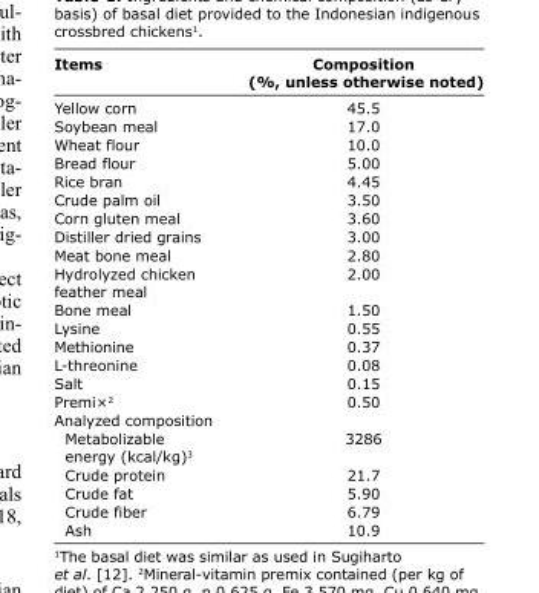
<table><thead><tr><td>Items</td><td>Composition (%, unless otherwise noted)</td></tr></thead><tbody><tr><td>Yellow corn</td><td>45.5</td></tr><tr><td>Soybean meal</td><td>17.0</td></tr><tr><td>Wheat flour</td><td>10.0</td></tr><tr><td>Bread flour</td><td>5.00</td></tr><tr><td>Rice bran</td><td>4.45</td></tr><tr><td>Crude palm oil</td><td>3.50</td></tr><tr><td>Corn gluten meal</td><td>3.60</td></tr><tr><td>Distiller dried grains</td><td>3.00</td></tr><tr><td>Meat bone meal</td><td>2.80</td></tr><tr><td>Hydrolyzed chicken feather meal</td><td>2.00</td></tr><tr><td>Bone meal</td><td>1.50</td></tr><tr><td>Lysine</td><td>0.55</td></tr><tr><td>Methionine</td><td>0.37</td></tr><tr><td>L-threonine</td><td>0.08</td></tr><tr><td>Salt</td><td>0.15</td></tr><tr><td>Premi×<sup>2</sup></td><td>0.50</td></tr><tr><td colspan="2">Analyzed composition</td></tr><tr><td>Metabolizable energy (kcal/kg)<sup>3</sup></td><td>3286</td></tr><tr><td>Crude protein</td><td>21.7</td></tr><tr><td>Crude fat</td><td>5.90</td></tr><tr><td>Crude fiber</td><td>6.79</td></tr><tr><td>Ash</td><td>10.9</td></tr></tbody></table>